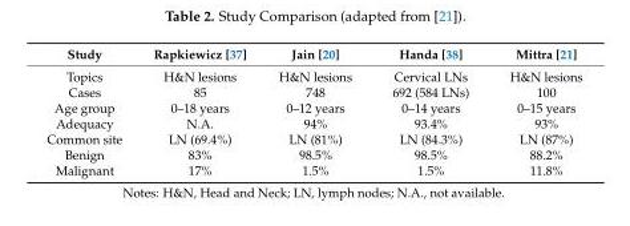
<table><thead><tr><td>Study</td><td>Rapkiewicz [37]</td><td>Jain [20]</td><td>Handa [38]</td><td>Mittra [21]</td></tr></thead><tbody><tr><td>Topics</td><td>H&amp;N lesions</td><td>H&amp;N lesions</td><td>Cervical LNs</td><td>H&amp;N lesions</td></tr><tr><td>Cases</td><td>85</td><td>748</td><td>692 (584 LNs)</td><td>100</td></tr><tr><td>Age group</td><td>0–18 years</td><td>0–12 years</td><td>0–14 years</td><td>0–15 years</td></tr><tr><td>Adequacy</td><td>N.A.</td><td>94%</td><td>93.4%</td><td>93%</td></tr><tr><td>Common site</td><td>LN (69.4%)</td><td>LN (81%)</td><td>LN (84.3%)</td><td>LN (87%)</td></tr><tr><td>Benign</td><td>83%</td><td>98.5%</td><td>98.5%</td><td>88.2%</td></tr><tr><td>Malignant</td><td>17%</td><td>1.5%</td><td>1.5%</td><td>11.8%</td></tr></tbody></table>